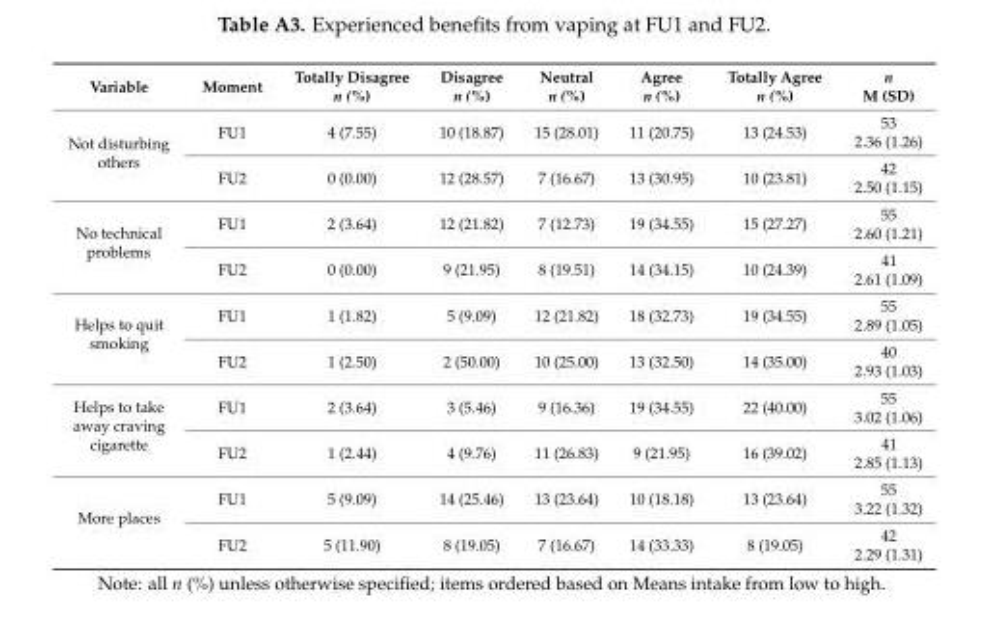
<table><thead><tr><td>Variable</td><td>Moment</td><td>Totally Disagree n (%)</td><td>Disagree n (%)</td><td>Neutral n (%)</td><td>Agree n (%)</td><td>Totally Agree n (%)</td><td>n M (SD)</td></tr></thead><tbody><tr><td rowspan="2">Not disturbing others</td><td>FU1</td><td>4 (7.55)</td><td>10 (18.87)</td><td>15 (28.01)</td><td>11 (20.75)</td><td>13 (24.53)</td><td>53 2.36 (1.26)</td></tr><tr><td>FU2</td><td>0 (0.00)</td><td>12 (28.57)</td><td>7 (16.67)</td><td>13 (30.95)</td><td>10 (23.81)</td><td>42 2.50 (1.15)</td></tr><tr><td rowspan="2">No technical problems</td><td>FU1</td><td>2 (3.64)</td><td>12 (21.82)</td><td>7 (12.73)</td><td>19 (34.55)</td><td>15 (27.27)</td><td>55 2.60 (1.21)</td></tr><tr><td>FU2</td><td>0 (0.00)</td><td>9 (21.95)</td><td>8 (19.51)</td><td>14 (34.15)</td><td>10 (24.39)</td><td>41 2.61 (1.09)</td></tr><tr><td rowspan="2">Helps to quit smoking</td><td>FU1</td><td>1 (1.82)</td><td>5 (9.09)</td><td>12 (21.82)</td><td>18 (32.73)</td><td>19 (34.55)</td><td>55 2.89 (1.05)</td></tr><tr><td>FU2</td><td>1 (2.50)</td><td>2 (50.00)</td><td>10 (25.00)</td><td>13 (32.50)</td><td>14 (35.00)</td><td>40 2.93 (1.03)</td></tr><tr><td rowspan="2">Helps to take away craving cigarette</td><td>FU1</td><td>2 (3.64)</td><td>3 (5.46)</td><td>9 (16.36)</td><td>19 (34.55)</td><td>22 (40.00)</td><td>55 3.02 (1.06)</td></tr><tr><td>FU2</td><td>1 (2.44)</td><td>4 (9.76)</td><td>11 (26.83)</td><td>9 (21.95)</td><td>16 (39.02)</td><td>41 2.85 (1.13)</td></tr><tr><td rowspan="2">More places</td><td>FU1</td><td>5 (9.09)</td><td>14 (25.46)</td><td>13 (23.64)</td><td>10 (18.18)</td><td>13 (23.64)</td><td>55 3.22 (1.32)</td></tr><tr><td>FU2</td><td>5 (11.90)</td><td>8 (19.05)</td><td>7 (16.67)</td><td>14 (33.33)</td><td>8 (19.05)</td><td>42 2.29 (1.31)</td></tr></tbody></table>